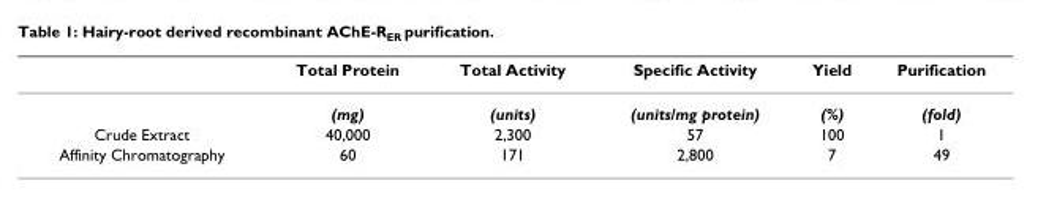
<table><thead><tr><td></td><td>Total Protein</td><td>Total Activity</td><td>Specific Activity</td><td>Yield</td><td>Purification</td></tr></thead><tbody><tr><td></td><td>(mg)</td><td>(units)</td><td>(units/mg protein)</td><td>(%)</td><td>(fold)</td></tr><tr><td>Crude Extract</td><td>40,000</td><td>2,300</td><td>57</td><td>100</td><td>1</td></tr><tr><td>Affinity Chromatography</td><td>60</td><td>171</td><td>2,800</td><td>7</td><td>49</td></tr></tbody></table>